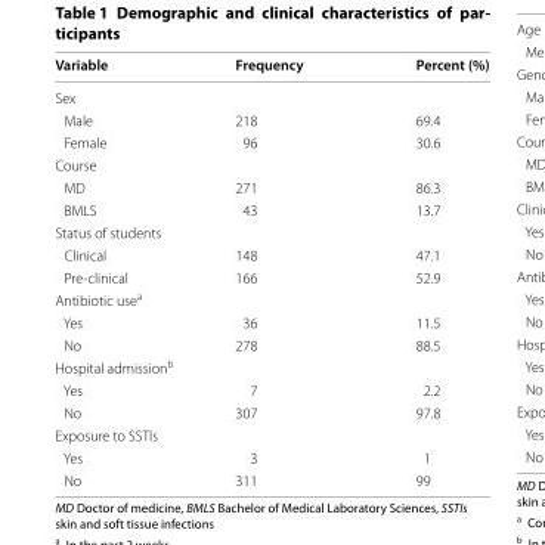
<table><thead><tr><td>Variable</td><td>Frequency</td><td>Percent (%)</td></tr></thead><tbody><tr><td colspan="3">Sex</td></tr><tr><td>Male</td><td>218</td><td>69.4</td></tr><tr><td>Female</td><td>96</td><td>30.6</td></tr><tr><td colspan="3">Course</td></tr><tr><td>MD</td><td>271</td><td>86.3</td></tr><tr><td>BMLS</td><td>43</td><td>13.7</td></tr><tr><td colspan="3">Status of students</td></tr><tr><td>Clinical</td><td>148</td><td>47.1</td></tr><tr><td>Pre-clinical</td><td>166</td><td>52.9</td></tr><tr><td colspan="3">Antibiotic use<sup>a</sup></td></tr><tr><td>Yes</td><td>36</td><td>11.5</td></tr><tr><td>No</td><td>278</td><td>88.5</td></tr><tr><td colspan="3">Hospital admission<sup>b</sup></td></tr><tr><td>Yes</td><td>7</td><td>2.2</td></tr><tr><td>No</td><td>307</td><td>97.8</td></tr><tr><td colspan="3">Exposure to SSTIs</td></tr><tr><td>Yes</td><td>3</td><td>1</td></tr><tr><td>No</td><td>311</td><td>99</td></tr></tbody></table>